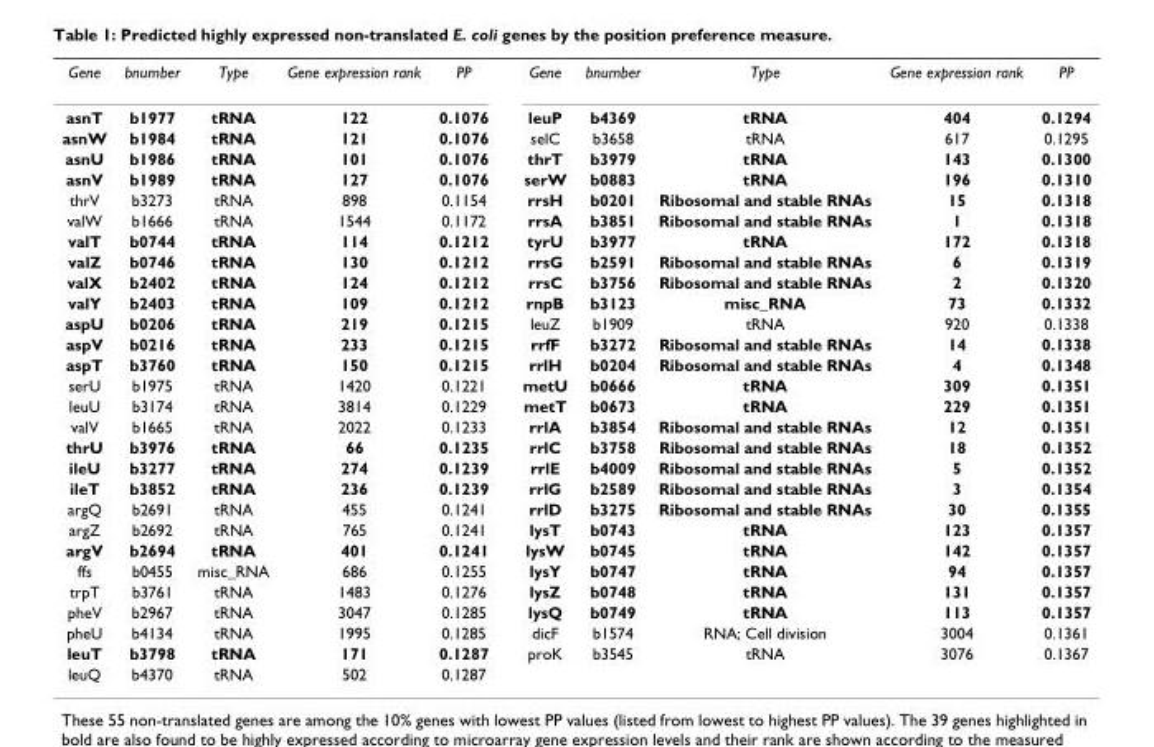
<table><tbody><tr><td>Gene</td><td>bnumber</td><td>Type</td><td>Gene expression rank</td><td>PP</td><td>Gene</td><td>bnumber</td><td>Type</td><td>Gene expression rank</td><td>PP</td></tr><tr><td>asnT</td><td>b1977</td><td>tRNA</td><td>122</td><td>0.1076</td><td>leuP</td><td>b4369</td><td>tRNA</td><td>404</td><td>0.1294</td></tr><tr><td>asnW</td><td>b1984</td><td>tRNA</td><td>121</td><td>0.1076</td><td>selC</td><td>b3658</td><td>tRNA</td><td>617</td><td>0.1295</td></tr><tr><td>asnU</td><td>b1986</td><td>tRNA</td><td>101</td><td>0.1076</td><td>thrT</td><td>b3979</td><td>tRNA</td><td>143</td><td>0.1300</td></tr><tr><td>asnV</td><td>b1989</td><td>tRNA</td><td>127</td><td>0.1076</td><td>serW</td><td>b0883</td><td>tRNA</td><td>196</td><td>0.1310</td></tr><tr><td>thrV</td><td>b3273</td><td>tRNA</td><td>898</td><td>0.1154</td><td>rrsH</td><td>b0201</td><td>Ribosomal and stable RNAs</td><td>15</td><td>0.1318</td></tr><tr><td>valW</td><td>b1666</td><td>tRNA</td><td>1544</td><td>0.1172</td><td>rrsA</td><td>b3851</td><td>Ribosomal and stable RNAs</td><td>1</td><td>0.1318</td></tr><tr><td>valT</td><td>b0744</td><td>tRNA</td><td>114</td><td>0.1212</td><td>tyrU</td><td>b3977</td><td>tRNA</td><td>172</td><td>0.1318</td></tr><tr><td>valZ</td><td>b0746</td><td>tRNA</td><td>130</td><td>0.1212</td><td>rrsG</td><td>b2591</td><td>Ribosomal and stable RNAs</td><td>6</td><td>0.1319</td></tr><tr><td>valX</td><td>b2402</td><td>tRNA</td><td>124</td><td>0.1212</td><td>rrsC</td><td>b3756</td><td>Ribosomal and stable RNAs</td><td>2</td><td>0.1320</td></tr><tr><td>valY</td><td>b2403</td><td>tRNA</td><td>109</td><td>0.1212</td><td>rnpB</td><td>b3123</td><td>misc_RNA</td><td>73</td><td>0.1332</td></tr><tr><td>aspU</td><td>b0206</td><td>tRNA</td><td>219</td><td>0.1215</td><td>leuZ</td><td>b1909</td><td>tRNA</td><td>920</td><td>0.1338</td></tr><tr><td>aspV</td><td>b0216</td><td>tRNA</td><td>233</td><td>0.1215</td><td>rrfF</td><td>b3272</td><td>Ribosomal and stable RNAs</td><td>14</td><td>0.1338</td></tr><tr><td>aspT</td><td>b3760</td><td>tRNA</td><td>150</td><td>0.1215</td><td>rrlH</td><td>b0204</td><td>Ribosomal and stable RNAs</td><td>4</td><td>0.1348</td></tr><tr><td>serU</td><td>b1975</td><td>tRNA</td><td>1420</td><td>0.1221</td><td>metU</td><td>b0666</td><td>tRNA</td><td>309</td><td>0.1351</td></tr><tr><td>leuU</td><td>b3174</td><td>tRNA</td><td>3814</td><td>0.1229</td><td>metT</td><td>b0673</td><td>tRNA</td><td>229</td><td>0.1351</td></tr><tr><td>valV</td><td>b1665</td><td>tRNA</td><td>2022</td><td>0.1233</td><td>rrlA</td><td>b3854</td><td>Ribosomal and stable RNAs</td><td>12</td><td>0.1351</td></tr><tr><td>thrU</td><td>b3976</td><td>tRNA</td><td>66</td><td>0.1235</td><td>rrlC</td><td>b3758</td><td>Ribosomal and stable RNAs</td><td>18</td><td>0.1352</td></tr><tr><td>ileU</td><td>b3277</td><td>tRNA</td><td>274</td><td>0.1239</td><td>rrlE</td><td>b4009</td><td>Ribosomal and stable RNAs</td><td>5</td><td>0.1352</td></tr><tr><td>ileT</td><td>b3852</td><td>tRNA</td><td>236</td><td>0.1239</td><td>rrlG</td><td>b2589</td><td>Ribosomal and stable RNAs</td><td>3</td><td>0.1354</td></tr><tr><td>argQ</td><td>b2691</td><td>tRNA</td><td>455</td><td>0.1241</td><td>rrlD</td><td>b3275</td><td>Ribosomal and stable RNAs</td><td>30</td><td>0.1355</td></tr><tr><td>argZ</td><td>b2692</td><td>tRNA</td><td>765</td><td>0.1241</td><td>lysT</td><td>b0743</td><td>tRNA</td><td>123</td><td>0.1357</td></tr><tr><td>argV</td><td>b2694</td><td>tRNA</td><td>401</td><td>0.1241</td><td>lysW</td><td>b0745</td><td>tRNA</td><td>142</td><td>0.1357</td></tr><tr><td>ffs</td><td>b0455</td><td>misc_RNA</td><td>686</td><td>0.1255</td><td>lysY</td><td>b0747</td><td>tRNA</td><td>94</td><td>0.1357</td></tr><tr><td>trpT</td><td>b3761</td><td>tRNA</td><td>1483</td><td>0.1276</td><td>lysZ</td><td>b0748</td><td>tRNA</td><td>131</td><td>0.1357</td></tr><tr><td>pheV</td><td>b2967</td><td>tRNA</td><td>3047</td><td>0.1285</td><td>lysQ</td><td>b0749</td><td>tRNA</td><td>113</td><td>0.1357</td></tr><tr><td>pheU</td><td>b4134</td><td>tRNA</td><td>1995</td><td>0.1285</td><td>dicF</td><td>b1574</td><td>RNA; Cell division</td><td>3004</td><td>0.1361</td></tr><tr><td>leuT</td><td>b3798</td><td>tRNA</td><td>171</td><td>0.1287</td><td>proK</td><td>b3545</td><td>tRNA</td><td>3076</td><td>0.1367</td></tr><tr><td>leuQ</td><td>b4370</td><td>tRNA</td><td>502</td><td>0.1287</td><td></td><td></td><td></td><td></td><td></td></tr></tbody></table>